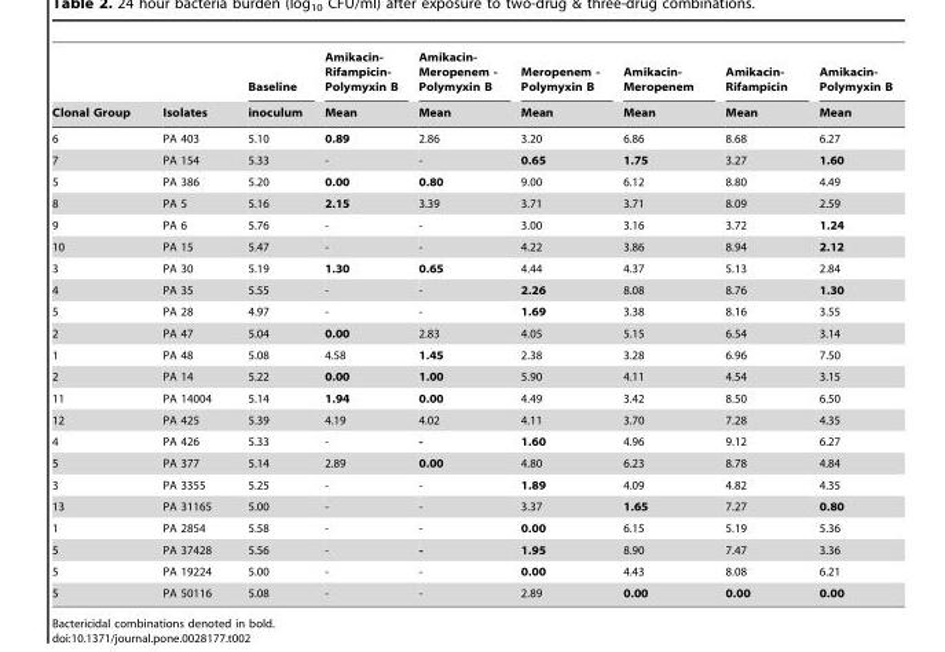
<table><thead><tr><td rowspan="2">Clonal Group</td><td rowspan="2">Isolates</td><td rowspan="2">Baseline inoculum</td><td rowspan="2">Amikacin- Rifampicin- Polymyxin B Mean</td><td rowspan="2">Amikacin- Meropenem - Polymyxin B Mean</td><td rowspan="2">Meropenem - Polymyxin B Mean</td><td rowspan="2">Amikacin- Meropenem Mean</td><td rowspan="2">Amikacin- Rifampicin Mean</td><td rowspan="2">Amikacin- Polymyxin B Mean</td></tr><tr></tr></thead><tbody><tr><td>6</td><td>PA 403</td><td>5.10</td><td>0.89</td><td>2.86</td><td>3.20</td><td>6.86</td><td>8.68</td><td>6.27</td></tr><tr><td>7</td><td>PA 154</td><td>5.33</td><td>-</td><td>-</td><td>0.65</td><td>1.75</td><td>3.27</td><td>1.60</td></tr><tr><td>5</td><td>PA 386</td><td>5.20</td><td>0.00</td><td>0.80</td><td>9.00</td><td>6.12</td><td>8.80</td><td>4.49</td></tr><tr><td>8</td><td>PA 5</td><td>5.16</td><td>2.15</td><td>3.39</td><td>3.71</td><td>3.71</td><td>8.09</td><td>2.59</td></tr><tr><td>9</td><td>PA 6</td><td>5.76</td><td>-</td><td>-</td><td>3.00</td><td>3.16</td><td>3.72</td><td>1.24</td></tr><tr><td>10</td><td>PA 15</td><td>5.47</td><td>-</td><td>-</td><td>4.22</td><td>3.86</td><td>8.94</td><td>2.12</td></tr><tr><td>3</td><td>PA 30</td><td>5.19</td><td>1.30</td><td>0.65</td><td>4.44</td><td>4.37</td><td>5.13</td><td>2.84</td></tr><tr><td>4</td><td>PA 35</td><td>5.55</td><td>-</td><td>-</td><td>2.26</td><td>8.08</td><td>8.76</td><td>1.30</td></tr><tr><td>5</td><td>PA 28</td><td>4.97</td><td>-</td><td>-</td><td>1.69</td><td>3.38</td><td>8.16</td><td>3.55</td></tr><tr><td>2</td><td>PA 47</td><td>5.04</td><td>0.00</td><td>2.83</td><td>4.05</td><td>5.15</td><td>6.54</td><td>3.14</td></tr><tr><td>1</td><td>PA 48</td><td>5.08</td><td>4.58</td><td>1.45</td><td>2.38</td><td>3.28</td><td>6.96</td><td>7.50</td></tr><tr><td>2</td><td>PA 14</td><td>5.22</td><td>0.00</td><td>1.00</td><td>5.90</td><td>4.11</td><td>4.54</td><td>3.15</td></tr><tr><td>11</td><td>PA 14004</td><td>5.14</td><td>1.94</td><td>0.00</td><td>4.49</td><td>3.42</td><td>8.50</td><td>6.50</td></tr><tr><td>12</td><td>PA 425</td><td>5.39</td><td>4.19</td><td>4.02</td><td>4.11</td><td>3.70</td><td>7.28</td><td>4.35</td></tr><tr><td>4</td><td>PA 426</td><td>5.33</td><td>-</td><td>-</td><td>1.60</td><td>4.96</td><td>9.12</td><td>6.27</td></tr><tr><td>5</td><td>PA 377</td><td>5.14</td><td>2.89</td><td>0.00</td><td>4.80</td><td>6.23</td><td>8.78</td><td>4.84</td></tr><tr><td>3</td><td>PA 3355</td><td>5.25</td><td>-</td><td>-</td><td>1.89</td><td>4.09</td><td>4.82</td><td>4.35</td></tr><tr><td>13</td><td>PA 31165</td><td>5.00</td><td>-</td><td>-</td><td>3.37</td><td>1.65</td><td>7.27</td><td>0.80</td></tr><tr><td>1</td><td>PA 2854</td><td>5.58</td><td>-</td><td>-</td><td>0.00</td><td>6.15</td><td>5.19</td><td>5.36</td></tr><tr><td>5</td><td>PA 37428</td><td>5.56</td><td>-</td><td>-</td><td>1.95</td><td>8.90</td><td>7.47</td><td>3.36</td></tr><tr><td>5</td><td>PA 19224</td><td>5.00</td><td>-</td><td>-</td><td>0.00</td><td>4.43</td><td>8.08</td><td>6.21</td></tr><tr><td>5</td><td>PA 50116</td><td>5.08</td><td>-</td><td>-</td><td>2.89</td><td>0.00</td><td>0.00</td><td>0.00</td></tr></tbody></table>